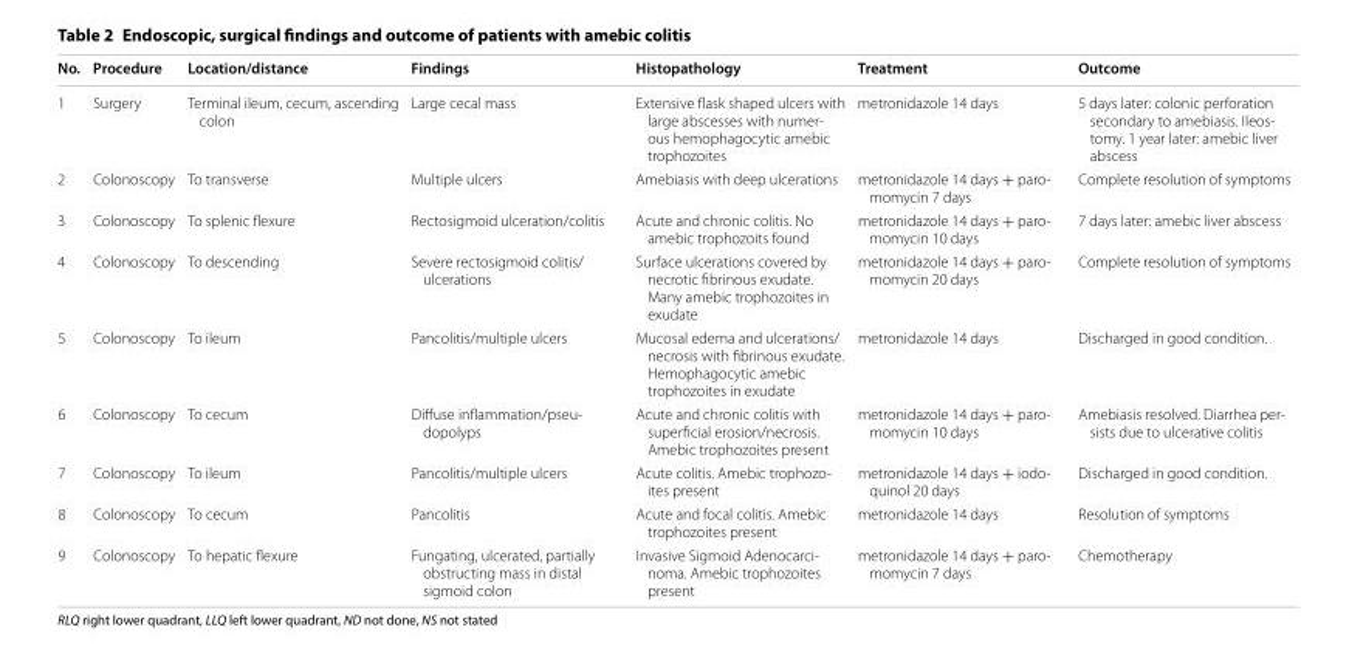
<table><thead><tr><td>No.</td><td>Procedure</td><td>Location/distance</td><td>Findings</td><td>Histopathology</td><td>Treatment</td><td>Outcome</td></tr></thead><tbody><tr><td>1</td><td>Surgery</td><td>Terminal ileum, cecum, ascending colon</td><td>Large cecal mass</td><td>Extensive flask shaped ulcers with large abscesses with numer‑ ous hemophagocytic amebic trophozoites</td><td>metronidazole 14 days</td><td>5 days later: colonic perforation secondary to amebiasis. Ileos‑ tomy. 1 year later: amebic liver abscess</td></tr><tr><td>2</td><td>Colonoscopy</td><td>To transverse</td><td>Multiple ulcers</td><td>Amebiasis with deep ulcerations</td><td>metronidazole 14 days + paro‑ momycin 7 days</td><td>Complete resolution of symptoms</td></tr><tr><td>3</td><td>Colonoscopy</td><td>To splenic flexure</td><td>Rectosigmoid ulceration/colitis</td><td>Acute and chronic colitis. No amebic trophozoits found</td><td>metronidazole 14 days + paro‑ momycin 10 days</td><td>7 days later: amebic liver abscess</td></tr><tr><td>4</td><td>Colonoscopy</td><td>To descending</td><td>Severe rectosigmoid colitis/ ulcerations</td><td>Surface ulcerations covered by necrotic fibrinous exudate. Many amebic trophozoites in exudate</td><td>metronidazole 14 days + paro‑ momycin 20 days</td><td>Complete resolution of symptoms</td></tr><tr><td>5</td><td>Colonoscopy</td><td>To ileum</td><td>Pancolitis/multiple ulcers</td><td>Mucosal edema and ulcerations/ necrosis with fibrinous exudate. Hemophagocytic amebic trophozoites in exudate</td><td>metronidazole 14 days</td><td>Discharged in good condition.</td></tr><tr><td>6</td><td>Colonoscopy</td><td>To cecum</td><td>Diffuse inflammation/pseu‑ dopolyps</td><td>Acute and chronic colitis with superficial erosion/necrosis. Amebic trophozoites present</td><td>metronidazole 14 days + paro‑ momycin 10 days</td><td>Amebiasis resolved. Diarrhea per‑ sists due to ulcerative colitis</td></tr><tr><td>7</td><td>Colonoscopy</td><td>To ileum</td><td>Pancolitis/multiple ulcers</td><td>Acute colitis. Amebic trophozo‑ ites present</td><td>metronidazole 14 days + iodo‑ quinol 20 days</td><td>Discharged in good condition.</td></tr><tr><td>8</td><td>Colonoscopy</td><td>To cecum</td><td>Pancolitis</td><td>Acute and focal colitis. Amebic trophozoites present</td><td>metronidazole 14 days</td><td>Resolution of symptoms</td></tr><tr><td>9</td><td>Colonoscopy</td><td>To hepatic flexure</td><td>Fungating, ulcerated, partially obstructing mass in distal sigmoid colon</td><td>Invasive Sigmoid Adenocarci‑ noma. Amebic trophozoites present</td><td>metronidazole 14 days + paro‑ momycin 7 days</td><td>Chemotherapy</td></tr></tbody></table>